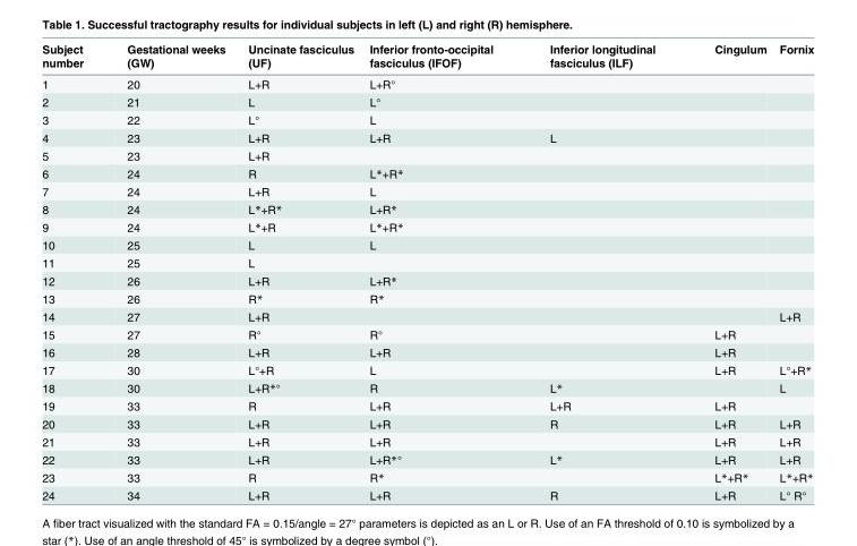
<table><thead><tr><td>Subject number</td><td>Gestational weeks (GW)</td><td>Uncinate fasciculus (UF)</td><td>Inferior fronto-occipital fasciculus (IFOF)</td><td>Inferior longitudinal fasciculus (ILF)</td><td>Cingulum</td><td>Fornix</td></tr></thead><tbody><tr><td>1</td><td>20</td><td>L+R</td><td>L+R°</td><td></td><td></td><td></td></tr><tr><td>2</td><td>21</td><td>L</td><td>L°</td><td></td><td></td><td></td></tr><tr><td>3</td><td>22</td><td>L°</td><td>L</td><td></td><td></td><td></td></tr><tr><td>4</td><td>23</td><td>L+R</td><td>L+R</td><td>L</td><td></td><td></td></tr><tr><td>5</td><td>23</td><td>L+R</td><td></td><td></td><td></td><td></td></tr><tr><td>6</td><td>24</td><td>R</td><td>L*+R*</td><td></td><td></td><td></td></tr><tr><td>7</td><td>24</td><td>L+R</td><td>L</td><td></td><td></td><td></td></tr><tr><td>8</td><td>24</td><td>L*+R*</td><td>L+R*</td><td></td><td></td><td></td></tr><tr><td>9</td><td>24</td><td>L*+R</td><td>L*+R*</td><td></td><td></td><td></td></tr><tr><td>10</td><td>25</td><td>L</td><td>L</td><td></td><td></td><td></td></tr><tr><td>11</td><td>25</td><td>L</td><td></td><td></td><td></td><td></td></tr><tr><td>12</td><td>26</td><td>L+R</td><td>L+R*</td><td></td><td></td><td></td></tr><tr><td>13</td><td>26</td><td>R*</td><td>R*</td><td></td><td></td><td></td></tr><tr><td>14</td><td>27</td><td>L+R</td><td></td><td></td><td></td><td>L+R</td></tr><tr><td>15</td><td>27</td><td>R°</td><td>R°</td><td></td><td>L+R</td><td></td></tr><tr><td>16</td><td>28</td><td>L+R</td><td>L+R</td><td></td><td>L+R</td><td></td></tr><tr><td>17</td><td>30</td><td>L°+R</td><td>L</td><td></td><td>L+R</td><td>L°+R*</td></tr><tr><td>18</td><td>30</td><td>L+R*°</td><td>R</td><td>L*</td><td></td><td>L</td></tr><tr><td>19</td><td>33</td><td>R</td><td>L+R</td><td>L+R</td><td>L+R</td><td></td></tr><tr><td>20</td><td>33</td><td>L+R</td><td>L+R</td><td>R</td><td>L+R</td><td>L+R</td></tr><tr><td>21</td><td>33</td><td>L+R</td><td>L+R</td><td></td><td>L+R</td><td>L+R</td></tr><tr><td>22</td><td>33</td><td>L+R</td><td>L+R*°</td><td>L*</td><td>L+R</td><td>L+R</td></tr><tr><td>23</td><td>33</td><td>R</td><td>R*</td><td></td><td>L*+R*</td><td>L*+R*</td></tr><tr><td>24</td><td>34</td><td>L+R</td><td>L+R</td><td>R</td><td>L+R</td><td>L° R°</td></tr></tbody></table>